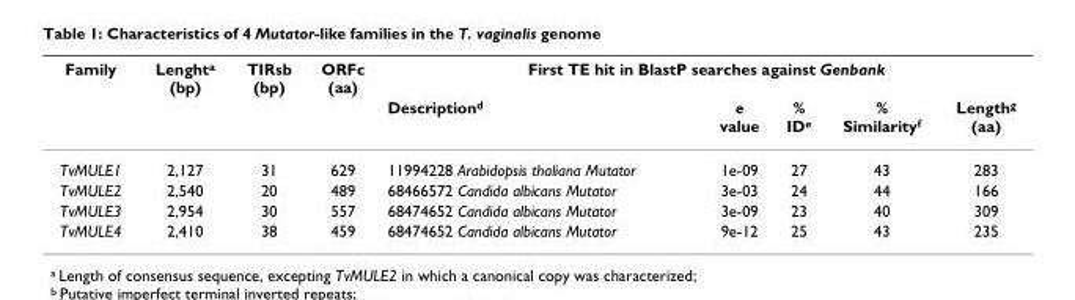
<table><thead><tr><td rowspan="2">Family</td><td rowspan="2">Lenght<sup>a</sup> (bp)</td><td rowspan="2">TIRsb (bp)</td><td rowspan="2">ORFc (aa)</td><td colspan="5">First TE hit in BlastP searches against Genbank</td></tr><tr><td>Description<sup>d</sup></td><td>e value</td><td>% ID<sup>e</sup></td><td>% Similarity<sup>f</sup></td><td>Length<sup>g</sup> (aa)</td></tr></thead><tbody><tr><td>TvMULE1</td><td>2,127</td><td>31</td><td>629</td><td>11994228 Arabidopsis thaliana Mutator</td><td>1e-09</td><td>27</td><td>43</td><td>283</td></tr><tr><td>TvMULE2</td><td>2,540</td><td>20</td><td>489</td><td>68466572 Candida albicans Mutator</td><td>3e-03</td><td>24</td><td>44</td><td>166</td></tr><tr><td>TvMULE3</td><td>2,954</td><td>30</td><td>557</td><td>68474652 Candida albicans Mutator</td><td>3e-09</td><td>23</td><td>40</td><td>309</td></tr><tr><td>TvMULE4</td><td>2,410</td><td>38</td><td>459</td><td>68474652 Candida albicans Mutator</td><td>9e-12</td><td>25</td><td>43</td><td>235</td></tr></tbody></table>